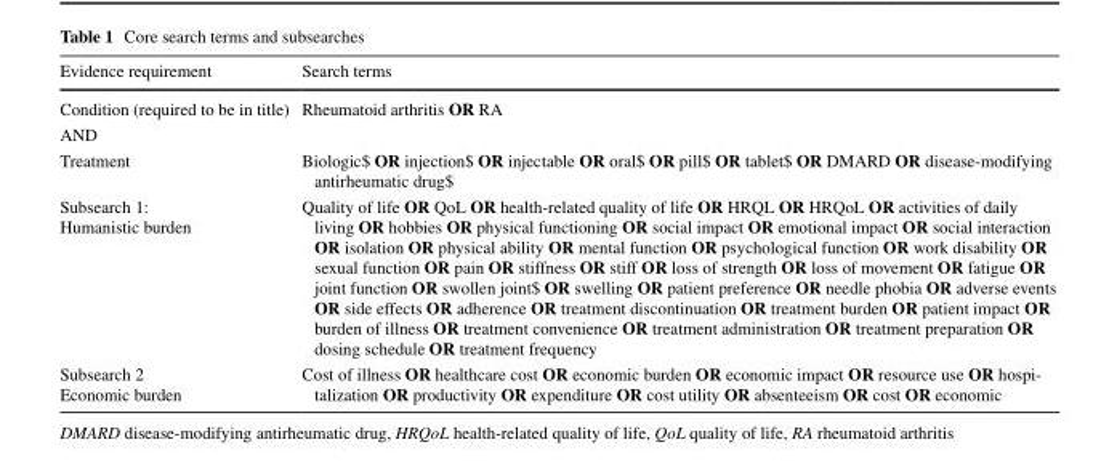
<table><thead><tr><td>Evidence requirement</td><td>Search terms</td></tr></thead><tbody><tr><td>Condition (required to be in title)</td><td>Rheumatoid arthritis OR RA</td></tr><tr><td colspan="2">AND</td></tr><tr><td>Treatment</td><td>Biologic$ OR injection$ OR injectable OR oral$ OR pill$ OR tablet$ OR DMARD OR disease-modifying antirheumatic drug$</td></tr><tr><td>Subsearch 1: Humanistic burden</td><td>Quality of life OR QoL OR health-related quality of life OR HRQL OR HRQoL OR activities of daily living OR hobbies OR physical functioning OR social impact OR emotional impact OR social interaction OR isolation OR physical ability OR mental function OR psychological function OR work disability OR sexual function OR pain OR stiffness OR stiff OR loss of strength OR loss of movement OR fatigue OR joint function OR swollen joint$ OR swelling OR patient preference OR needle phobia OR adverse events OR side effects OR adherence OR treatment discontinuation OR treatment burden OR patient impact OR burden of illness OR treatment convenience OR treatment administration OR treatment preparation OR dosing schedule OR treatment frequency</td></tr><tr><td>Subsearch 2 Economic burden</td><td>Cost of illness OR healthcare cost OR economic burden OR economic impact OR resource use OR hospi- talization OR productivity OR expenditure OR cost utility OR absenteeism OR cost OR economic</td></tr></tbody></table>